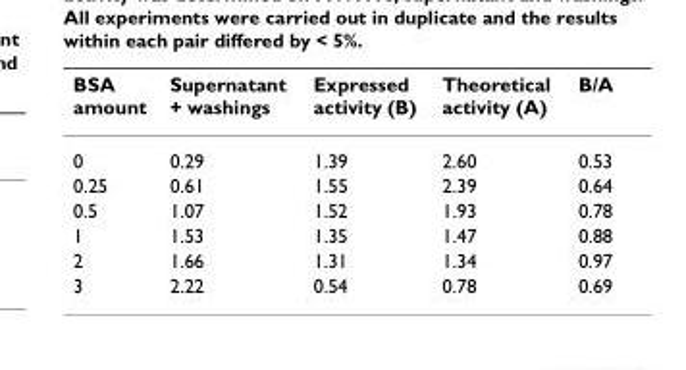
<table><thead><tr><td>BSA amount</td><td>Supernatant + washings</td><td>Expressed activity (B)</td><td>Theoretical activity (A)</td><td>B/A</td></tr></thead><tbody><tr><td>0</td><td>0.29</td><td>1.39</td><td>2.60</td><td>0.53</td></tr><tr><td>0.25</td><td>0.61</td><td>1.55</td><td>2.39</td><td>0.64</td></tr><tr><td>0.5</td><td>1.07</td><td>1.52</td><td>1.93</td><td>0.78</td></tr><tr><td>1</td><td>1.53</td><td>1.35</td><td>1.47</td><td>0.88</td></tr><tr><td>2</td><td>1.66</td><td>1.31</td><td>1.34</td><td>0.97</td></tr><tr><td>3</td><td>2.22</td><td>0.54</td><td>0.78</td><td>0.69</td></tr></tbody></table>